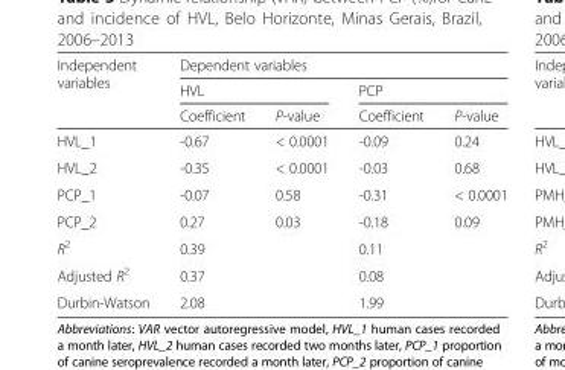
<table><thead><tr><td rowspan="3">Independent variables</td><td colspan="4">Dependent variables</td></tr><tr><td colspan="2">HVL</td><td colspan="2">PCP</td></tr><tr><td>Coefficient</td><td>P-value</td><td>Coefficient</td><td>P-value</td></tr></thead><tbody><tr><td>HVL_1</td><td>-0.67</td><td>&lt; 0.0001</td><td>-0.09</td><td>0.24</td></tr><tr><td>HVL_2</td><td>-0.35</td><td>&lt; 0.0001</td><td>-0.03</td><td>0.68</td></tr><tr><td>PCP_1</td><td>-0.07</td><td>0.58</td><td>-0.31</td><td>&lt; 0.0001</td></tr><tr><td>PCP_2</td><td>0.27</td><td>0.03</td><td>-0.18</td><td>0.09</td></tr><tr><td>R<sup>2</sup></td><td colspan="2">0.39</td><td colspan="2">0.11</td></tr><tr><td>Adjusted R<sup>2</sup></td><td colspan="2">0.37</td><td colspan="2">0.08</td></tr><tr><td>Durbin-Watson</td><td colspan="2">2.08</td><td colspan="2">1.99</td></tr></tbody></table>